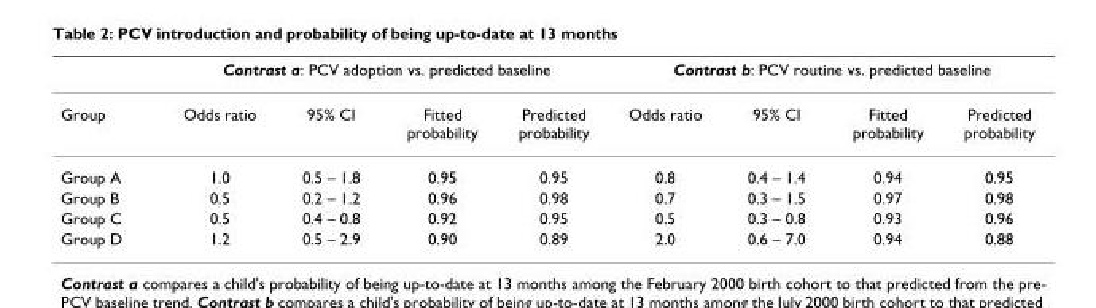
<table><thead><tr><td rowspan="2">Group</td><td colspan="4">Contrast a: PCV adoption vs. predicted baseline</td><td colspan="4">Contrast b: PCV routine vs. predicted baseline</td></tr><tr><td>Odds ratio</td><td>95% CI</td><td>Fitted probability</td><td>Predicted probability</td><td>Odds ratio</td><td>95% CI</td><td>Fitted probability</td><td>Predicted probability</td></tr></thead><tbody><tr><td>Group A</td><td>1.0</td><td>0.5 – 1.8</td><td>0.95</td><td>0.95</td><td>0.8</td><td>0.4 – 1.4</td><td>0.94</td><td>0.95</td></tr><tr><td>Group B</td><td>0.5</td><td>0.2 – 1.2</td><td>0.96</td><td>0.98</td><td>0.7</td><td>0.3 – 1.5</td><td>0.97</td><td>0.98</td></tr><tr><td>Group C</td><td>0.5</td><td>0.4 – 0.8</td><td>0.92</td><td>0.95</td><td>0.5</td><td>0.3 – 0.8</td><td>0.93</td><td>0.96</td></tr><tr><td>Group D</td><td>1.2</td><td>0.5 – 2.9</td><td>0.90</td><td>0.89</td><td>2.0</td><td>0.6 – 7.0</td><td>0.94</td><td>0.88</td></tr></tbody></table>